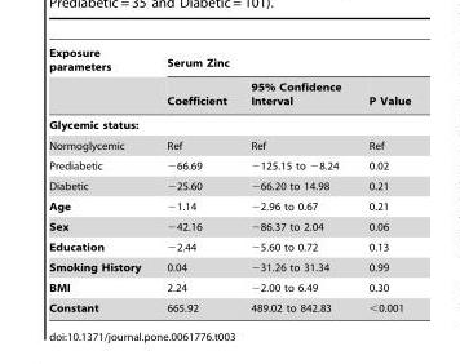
<table><thead><tr><td rowspan="2">Exposure parameters</td><td colspan="3">Serum Zinc</td></tr><tr><td>Coefficient</td><td>95% Confidence Interval</td><td>P Value</td></tr></thead><tbody><tr><td colspan="4">Glycemic status:</td></tr><tr><td>Normoglycemic</td><td>Ref</td><td>Ref</td><td>Ref</td></tr><tr><td>Prediabetic</td><td>−66.69</td><td>−125.15 to −8.24</td><td>0.02</td></tr><tr><td>Diabetic</td><td>−25.60</td><td>−66.20 to 14.98</td><td>0.21</td></tr><tr><td>Age</td><td>−1.14</td><td>−2.96 to 0.67</td><td>0.21</td></tr><tr><td>Sex</td><td>−42.16</td><td>−86.37 to 2.04</td><td>0.06</td></tr><tr><td>Education</td><td>−2.44</td><td>−5.60 to 0.72</td><td>0.13</td></tr><tr><td>Smoking History</td><td>0.04</td><td>−31.26 to 31.34</td><td>0.99</td></tr><tr><td>BMI</td><td>2.24</td><td>−2.00 to 6.49</td><td>0.30</td></tr><tr><td>Constant</td><td>665.92</td><td>489.02 to 842.83</td><td>&lt;0.001</td></tr></tbody></table>